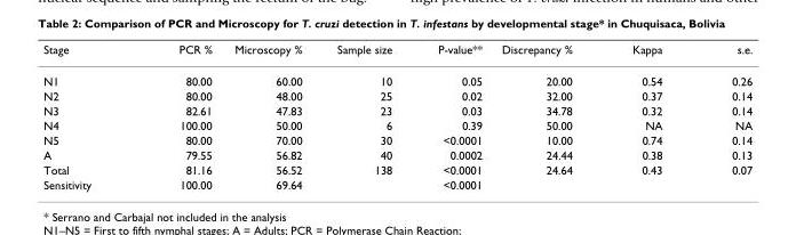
<table><thead><tr><td>Stage</td><td>PCR %</td><td>Microscopy %</td><td>Sample size</td><td>P-value**</td><td>Discrepancy %</td><td>Kappa</td><td>s.e.</td></tr></thead><tbody><tr><td>N1</td><td>80.00</td><td>60.00</td><td>10</td><td>0.05</td><td>20.00</td><td>0.54</td><td>0.26</td></tr><tr><td>N2</td><td>80.00</td><td>48.00</td><td>25</td><td>0.02</td><td>32.00</td><td>0.37</td><td>0.14</td></tr><tr><td>N3</td><td>82.61</td><td>47.83</td><td>23</td><td>0.03</td><td>34.78</td><td>0.32</td><td>0.14</td></tr><tr><td>N4</td><td>100.00</td><td>50.00</td><td>6</td><td>0.39</td><td>50.00</td><td>NA</td><td>NA</td></tr><tr><td>N5</td><td>80.00</td><td>70.00</td><td>30</td><td>&lt;0.0001</td><td>10.00</td><td>0.74</td><td>0.14</td></tr><tr><td>A</td><td>79.55</td><td>56.82</td><td>40</td><td>0.0002</td><td>24.44</td><td>0.38</td><td>0.13</td></tr><tr><td>Total</td><td>81.16</td><td>56.52</td><td>138</td><td>&lt;0.0001</td><td>24.64</td><td>0.43</td><td>0.07</td></tr><tr><td>Sensitivity</td><td>100.00</td><td>69.64</td><td></td><td>&lt;0.0001</td><td></td><td></td><td></td></tr></tbody></table>